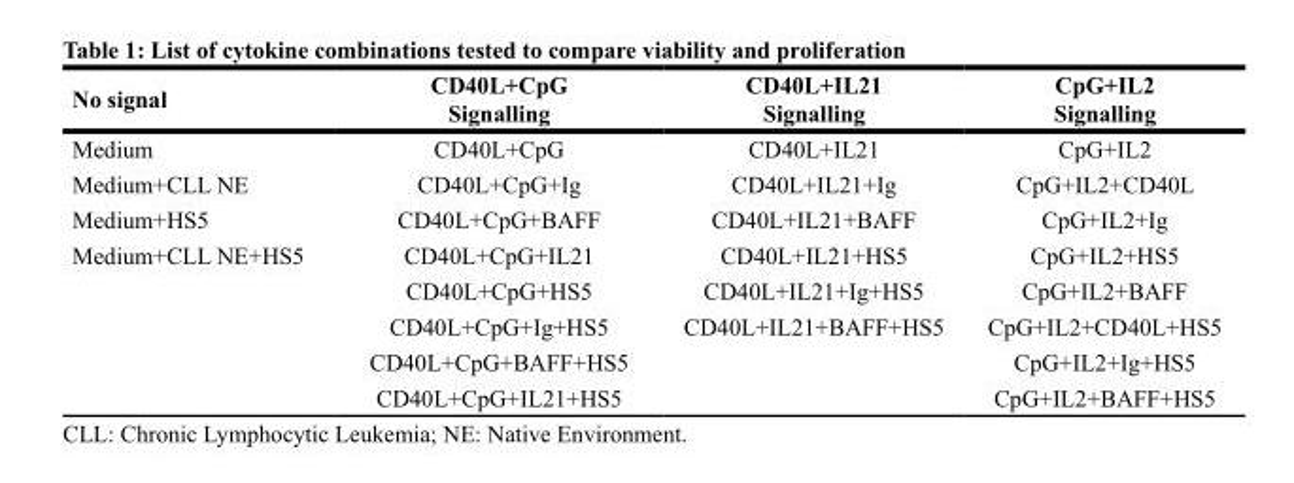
<table><thead><tr><td>No signal</td><td>CD40L+CpG Signalling</td><td>CD40L+IL21 Signalling</td><td>CpG+IL2 Signalling</td></tr></thead><tbody><tr><td>Medium</td><td>CD40L+CpG</td><td>CD40L+IL21</td><td>CpG+IL2</td></tr><tr><td>Medium+CLL NE</td><td>CD40L+CpG+Ig</td><td>CD40L+IL21+Ig</td><td>CpG+IL2+CD40L</td></tr><tr><td>Medium+HS5</td><td>CD40L+CpG+BAFF</td><td>CD40L+IL21+BAFF</td><td>CpG+IL2+Ig</td></tr><tr><td rowspan="5">Medium+CLL NE+HS5</td><td>CD40L+CpG+IL21</td><td>CD40L+IL21+HS5</td><td>CpG+IL2+HS5</td></tr><tr><td>CD40L+CpG+HS5</td><td>CD40L+IL21+Ig+HS5</td><td>CpG+IL2+BAFF</td></tr><tr><td>CD40L+CpG+Ig+HS5</td><td>CD40L+IL21+BAFF+HS5</td><td>CpG+IL2+CD40L+HS5</td></tr><tr><td>CD40L+CpG+BAFF+HS5</td><td></td><td>CpG+IL2+Ig+HS5</td></tr><tr><td>CD40L+CpG+IL21+HS5</td><td></td><td>CpG+IL2+BAFF+HS5</td></tr></tbody></table>